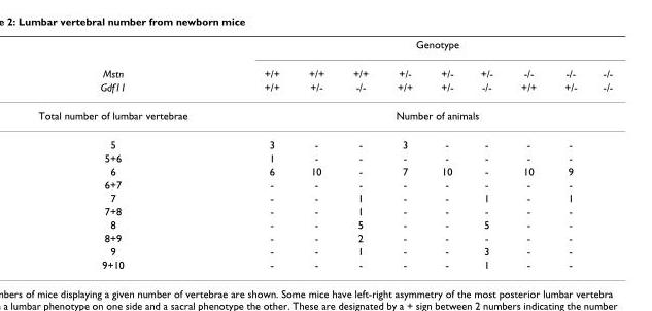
<table><thead><tr><td rowspan="3">Mstn Gdf11</td><td colspan="9">Genotype</td></tr><tr><td rowspan="2">+/+ +/+</td><td rowspan="2">+/+ +/-</td><td rowspan="2">+/+ -/-</td><td rowspan="2">+/- +/+</td><td rowspan="2">+/- +/-</td><td rowspan="2">+/- -/-</td><td rowspan="2">-/- +/+</td><td rowspan="2">-/- +/-</td><td rowspan="2">-/- -/-</td></tr><tr></tr></thead><tbody><tr><td>Total number of lumbar vertebrae</td><td colspan="9">Number of animals</td></tr><tr><td>5</td><td>3</td><td>-</td><td>-</td><td>3</td><td>-</td><td>-</td><td>-</td><td>-</td><td></td></tr><tr><td>5+6</td><td>1</td><td>-</td><td>-</td><td>-</td><td>-</td><td>-</td><td>-</td><td>-</td><td></td></tr><tr><td>6</td><td>6</td><td>10</td><td>-</td><td>7</td><td>10</td><td>-</td><td>10</td><td>9</td><td></td></tr><tr><td>6+7</td><td>-</td><td>-</td><td>-</td><td>-</td><td>-</td><td>-</td><td>-</td><td>-</td><td></td></tr><tr><td>7</td><td>-</td><td>-</td><td>1</td><td>-</td><td>-</td><td>1</td><td>-</td><td>1</td><td></td></tr><tr><td>7+8</td><td>-</td><td>-</td><td>1</td><td>-</td><td>-</td><td>-</td><td>-</td><td>-</td><td></td></tr><tr><td>8</td><td>-</td><td>-</td><td>5</td><td>-</td><td>-</td><td>5</td><td>-</td><td>-</td><td></td></tr><tr><td>8+9</td><td>-</td><td>-</td><td>2</td><td>-</td><td>-</td><td>-</td><td>-</td><td>-</td><td></td></tr><tr><td>9</td><td>-</td><td>-</td><td>1</td><td>-</td><td>-</td><td>3</td><td>-</td><td>-</td><td></td></tr><tr><td>9+10</td><td>-</td><td>-</td><td>-</td><td>-</td><td>-</td><td>1</td><td>-</td><td>-</td><td></td></tr></tbody></table>